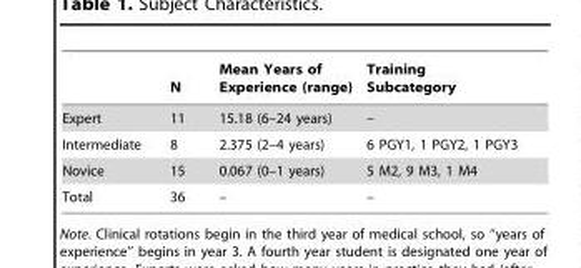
<table><thead><tr><td></td><td>N</td><td>Mean Years of Experience (range)</td><td>Training Subcategory</td></tr></thead><tbody><tr><td>Expert</td><td>11</td><td>15.18 (6–24 years)</td><td>–</td></tr><tr><td>Intermediate</td><td>8</td><td>2.375 (2–4 years)</td><td>6 PGY1, 1 PGY2, 1 PGY3</td></tr><tr><td>Novice</td><td>15</td><td>0.067 (0–1 years)</td><td>5 M2, 9 M3, 1 M4</td></tr><tr><td>Total</td><td>36</td><td>–</td><td>–</td></tr></tbody></table>